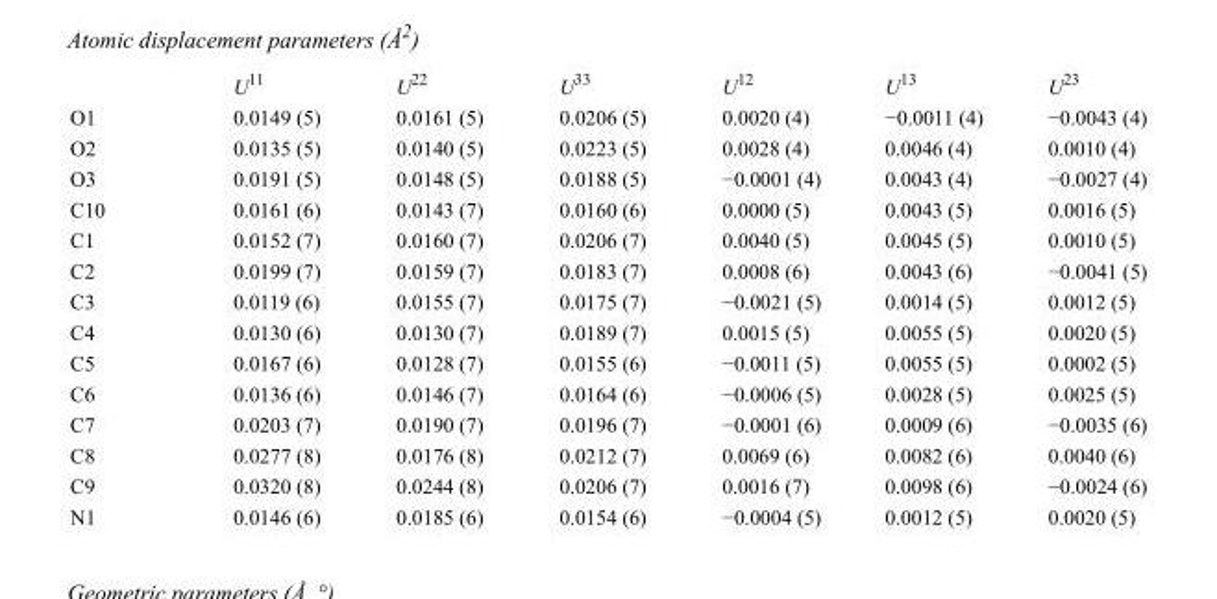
<table><thead><tr><td></td><td>U<sup>11</sup></td><td>U<sup>22</sup></td><td>U<sup>33</sup></td><td>U<sup>12</sup></td><td>U<sup>13</sup></td><td>U<sup>23</sup></td></tr></thead><tbody><tr><td>O1</td><td>0.0149 (5)</td><td>0.0161 (5)</td><td>0.0206 (5)</td><td>0.0020 (4)</td><td>−0.0011 (4)</td><td>−0.0043 (4)</td></tr><tr><td>O2</td><td>0.0135 (5)</td><td>0.0140 (5)</td><td>0.0223 (5)</td><td>0.0028 (4)</td><td>0.0046 (4)</td><td>0.0010 (4)</td></tr><tr><td>O3</td><td>0.0191 (5)</td><td>0.0148 (5)</td><td>0.0188 (5)</td><td>−0.0001 (4)</td><td>0.0043 (4)</td><td>−0.0027 (4)</td></tr><tr><td>C10</td><td>0.0161 (6)</td><td>0.0143 (7)</td><td>0.0160 (6)</td><td>0.0000 (5)</td><td>0.0043 (5)</td><td>0.0016 (5)</td></tr><tr><td>C1</td><td>0.0152 (7)</td><td>0.0160 (7)</td><td>0.0206 (7)</td><td>0.0040 (5)</td><td>0.0045 (5)</td><td>0.0010 (5)</td></tr><tr><td>C2</td><td>0.0199 (7)</td><td>0.0159 (7)</td><td>0.0183 (7)</td><td>0.0008 (6)</td><td>0.0043 (6)</td><td>−0.0041 (5)</td></tr><tr><td>C3</td><td>0.0119 (6)</td><td>0.0155 (7)</td><td>0.0175 (7)</td><td>−0.0021 (5)</td><td>0.0014 (5)</td><td>0.0012 (5)</td></tr><tr><td>C4</td><td>0.0130 (6)</td><td>0.0130 (7)</td><td>0.0189 (7)</td><td>0.0015 (5)</td><td>0.0055 (5)</td><td>0.0020 (5)</td></tr><tr><td>C5</td><td>0.0167 (6)</td><td>0.0128 (7)</td><td>0.0155 (6)</td><td>−0.0011 (5)</td><td>0.0055 (5)</td><td>0.0002 (5)</td></tr><tr><td>C6</td><td>0.0136 (6)</td><td>0.0146 (7)</td><td>0.0164 (6)</td><td>−0.0006 (5)</td><td>0.0028 (5)</td><td>0.0025 (5)</td></tr><tr><td>C7</td><td>0.0203 (7)</td><td>0.0190 (7)</td><td>0.0196 (7)</td><td>−0.0001 (6)</td><td>0.0009 (6)</td><td>−0.0035 (6)</td></tr><tr><td>C8</td><td>0.0277 (8)</td><td>0.0176 (8)</td><td>0.0212 (7)</td><td>0.0069 (6)</td><td>0.0082 (6)</td><td>0.0040 (6)</td></tr><tr><td>C9</td><td>0.0320 (8)</td><td>0.0244 (8)</td><td>0.0206 (7)</td><td>0.0016 (7)</td><td>0.0098 (6)</td><td>−0.0024 (6)</td></tr><tr><td>N1</td><td>0.0146 (6)</td><td>0.0185 (6)</td><td>0.0154 (6)</td><td>−0.0004 (5)</td><td>0.0012 (5)</td><td>0.0020 (5)</td></tr></tbody></table>